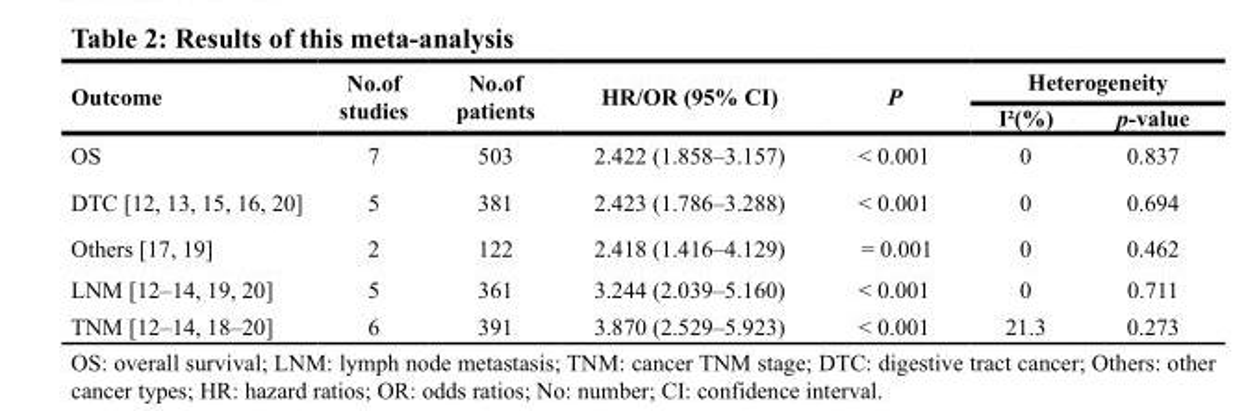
<table><thead><tr><td rowspan="2">Outcome</td><td rowspan="2">No.of studies</td><td rowspan="2">No.of patients</td><td rowspan="2">HR/OR (95% CI)</td><td rowspan="2">P</td><td colspan="2">Heterogeneity</td></tr><tr><td>I²(%)</td><td>p-value</td></tr></thead><tbody><tr><td>OS</td><td>7</td><td>503</td><td>2.422 (1.858–3.157)</td><td>&lt; 0.001</td><td>0</td><td>0.837</td></tr><tr><td>DTC [12, 13, 15, 16, 20]</td><td>5</td><td>381</td><td>2.423 (1.786–3.288)</td><td>&lt; 0.001</td><td>0</td><td>0.694</td></tr><tr><td>Others [17, 19]</td><td>2</td><td>122</td><td>2.418 (1.416–4.129)</td><td>= 0.001</td><td>0</td><td>0.462</td></tr><tr><td>LNM [12–14, 19, 20]</td><td>5</td><td>361</td><td>3.244 (2.039–5.160)</td><td>&lt; 0.001</td><td>0</td><td>0.711</td></tr><tr><td>TNM [12–14, 18–20]</td><td>6</td><td>391</td><td>3.870 (2.529–5.923)</td><td>&lt; 0.001</td><td>21.3</td><td>0.273</td></tr></tbody></table>